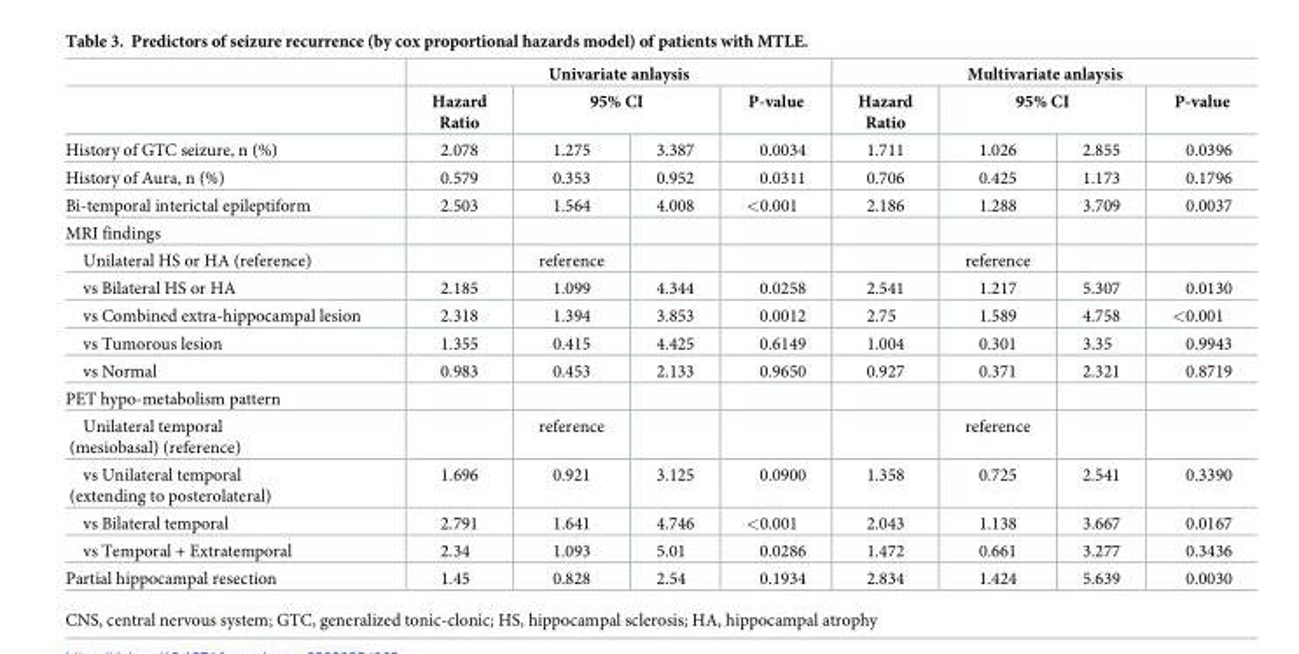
<table><thead><tr><td rowspan="3">History of GTC seizure, n (%)</td><td colspan="4">Univariate anlaysis</td><td colspan="4">Multivariate anlaysis</td></tr><tr><td rowspan="2">Hazard Ratio 2.078</td><td colspan="2">95% CI</td><td rowspan="2">P-value 0.0034</td><td rowspan="2">Hazard Ratio 1.711</td><td colspan="2">95% CI</td><td rowspan="2">P-value 0.0396</td></tr><tr><td>1.275</td><td>3.387</td><td>1.026</td><td>2.855</td></tr></thead><tbody><tr><td>History of Aura, n (%)</td><td>0.579</td><td>0.353</td><td>0.952</td><td>0.0311</td><td>0.706</td><td>0.425</td><td>1.173</td><td>0.1796</td></tr><tr><td>Bi-temporal interictal epileptiform</td><td>2.503</td><td>1.564</td><td>4.008</td><td>&lt;0.001</td><td>2.186</td><td>1.288</td><td>3.709</td><td>0.0037</td></tr><tr><td colspan="9">MRI findings</td></tr><tr><td>Unilateral HS or HA (reference)</td><td></td><td>reference</td><td></td><td></td><td></td><td>reference</td><td></td><td></td></tr><tr><td>vs Bilateral HS or HA</td><td>2.185</td><td>1.099</td><td>4.344</td><td>0.0258</td><td>2.541</td><td>1.217</td><td>5.307</td><td>0.0130</td></tr><tr><td>vs Combined extra-hippocampal lesion</td><td>2.318</td><td>1.394</td><td>3.853</td><td>0.0012</td><td>2.75</td><td>1.589</td><td>4.758</td><td>&lt;0.001</td></tr><tr><td>vs Tumorous lesion</td><td>1.355</td><td>0.415</td><td>4.425</td><td>0.6149</td><td>1.004</td><td>0.301</td><td>3.35</td><td>0.9943</td></tr><tr><td>vs Normal</td><td>0.983</td><td>0.453</td><td>2.133</td><td>0.9650</td><td>0.927</td><td>0.371</td><td>2.321</td><td>0.8719</td></tr><tr><td colspan="9">PET hypo-metabolism pattern</td></tr><tr><td>Unilateral temporal (mesiobasal) (reference)</td><td></td><td>reference</td><td></td><td></td><td></td><td>reference</td><td></td><td></td></tr><tr><td>vs Unilateral temporal (extending to posterolateral)</td><td>1.696</td><td>0.921</td><td>3.125</td><td>0.0900</td><td>1.358</td><td>0.725</td><td>2.541</td><td>0.3390</td></tr><tr><td>vs Bilateral temporal</td><td>2.791</td><td>1.641</td><td>4.746</td><td>&lt;0.001</td><td>2.043</td><td>1.138</td><td>3.667</td><td>0.0167</td></tr><tr><td>vs Temporal + Extratemporal</td><td>2.34</td><td>1.093</td><td>5.01</td><td>0.0286</td><td>1.472</td><td>0.661</td><td>3.277</td><td>0.3436</td></tr><tr><td>Partial hippocampal resection</td><td>1.45</td><td>0.828</td><td>2.54</td><td>0.1934</td><td>2.834</td><td>1.424</td><td>5.639</td><td>0.0030</td></tr></tbody></table>